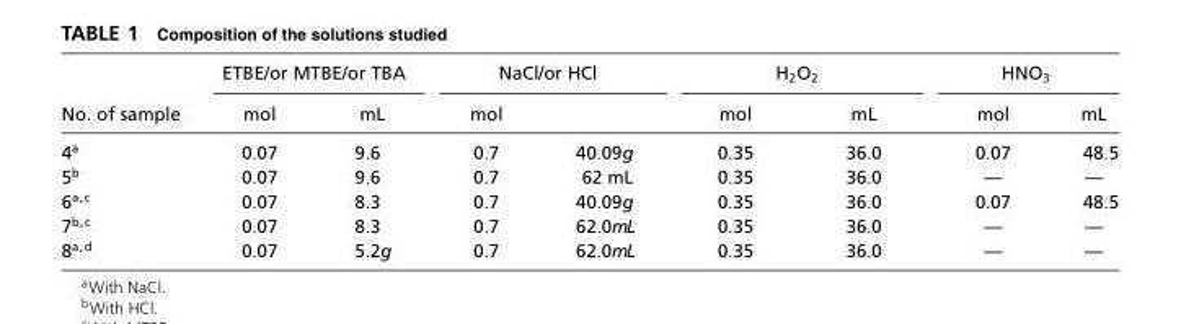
<table><thead><tr><td rowspan="2">No. of sample</td><td colspan="2">ETBE/or MTBE/or TBA</td><td colspan="2">NaCl/or HCl</td><td colspan="2">H<sub>2</sub>O<sub>2</sub></td><td colspan="2">HNO<sub>3</sub></td></tr><tr><td>mol</td><td>mL</td><td>mol</td><td></td><td>mol</td><td>mL</td><td>mol</td><td>mL</td></tr></thead><tbody><tr><td>4<sup>a</sup></td><td>0.07</td><td>9.6</td><td>0.7</td><td>40.09g</td><td>0.35</td><td>36.0</td><td>0.07</td><td>48.5</td></tr><tr><td>5<sup>b</sup></td><td>0.07</td><td>9.6</td><td>0.7</td><td>62 mL</td><td>0.35</td><td>36.0</td><td>—</td><td>—</td></tr><tr><td>6<sup>a,c</sup></td><td>0.07</td><td>8.3</td><td>0.7</td><td>40.09g</td><td>0.35</td><td>36.0</td><td>0.07</td><td>48.5</td></tr><tr><td>7<sup>b,c</sup></td><td>0.07</td><td>8.3</td><td>0.7</td><td>62.0mL</td><td>0.35</td><td>36.0</td><td>—</td><td>—</td></tr><tr><td>8<sup>a,d</sup></td><td>0.07</td><td>5.2g</td><td>0.7</td><td>62.0mL</td><td>0.35</td><td>36.0</td><td>—</td><td>—</td></tr></tbody></table>